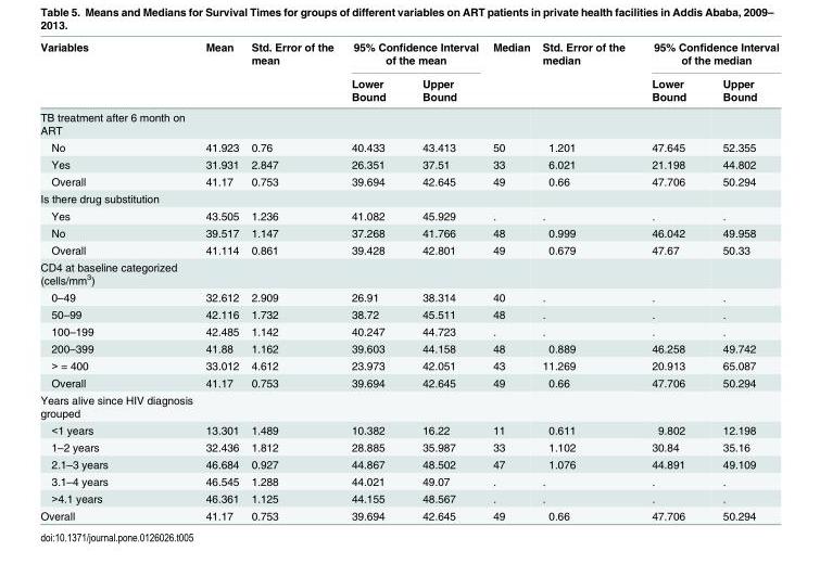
<table><thead><tr><td rowspan="2">Variables</td><td rowspan="2">Mean</td><td rowspan="2">Std. Error of the mean</td><td colspan="2">95% Confidence Interval of the mean</td><td rowspan="2">Median</td><td rowspan="2">Std. Error of the median</td><td colspan="2">95% Confidence Interval of the median</td></tr><tr><td>Lower Bound</td><td>Upper Bound</td><td>Lower Bound</td><td>Upper Bound</td></tr></thead><tbody><tr><td colspan="9">TB treatment after 6 month on ART</td></tr><tr><td>No</td><td>41.923</td><td>0.76</td><td>40.433</td><td>43.413</td><td>50</td><td>1.201</td><td>47.645</td><td>52.355</td></tr><tr><td>Yes</td><td>31.931</td><td>2.847</td><td>26.351</td><td>37.51</td><td>33</td><td>6.021</td><td>21.198</td><td>44.802</td></tr><tr><td>Overall</td><td>41.17</td><td>0.753</td><td>39.694</td><td>42.645</td><td>49</td><td>0.66</td><td>47.706</td><td>50.294</td></tr><tr><td colspan="9">Is there drug substitution</td></tr><tr><td>Yes</td><td>43.505</td><td>1.236</td><td>41.082</td><td>45.929</td><td>.</td><td>.</td><td>.</td><td>.</td></tr><tr><td>No</td><td>39.517</td><td>1.147</td><td>37.268</td><td>41.766</td><td>48</td><td>0.999</td><td>46.042</td><td>49.958</td></tr><tr><td>Overall</td><td>41.114</td><td>0.861</td><td>39.428</td><td>42.801</td><td>49</td><td>0.679</td><td>47.67</td><td>50.33</td></tr><tr><td colspan="9">CD4 at baseline categorized (cells/mm<sup>3</sup>)</td></tr><tr><td>0–49</td><td>32.612</td><td>2.909</td><td>26.91</td><td>38.314</td><td>40</td><td>.</td><td>.</td><td>.</td></tr><tr><td>50–99</td><td>42.116</td><td>1.732</td><td>38.72</td><td>45.511</td><td>48</td><td>.</td><td>.</td><td>.</td></tr><tr><td>100–199</td><td>42.485</td><td>1.142</td><td>40.247</td><td>44.723</td><td>.</td><td>.</td><td>.</td><td>.</td></tr><tr><td>200–399</td><td>41.88</td><td>1.162</td><td>39.603</td><td>44.158</td><td>48</td><td>0.889</td><td>46.258</td><td>49.742</td></tr><tr><td>&gt; = 400</td><td>33.012</td><td>4.612</td><td>23.973</td><td>42.051</td><td>43</td><td>11.269</td><td>20.913</td><td>65.087</td></tr><tr><td>Overall</td><td>41.17</td><td>0.753</td><td>39.694</td><td>42.645</td><td>49</td><td>0.66</td><td>47.706</td><td>50.294</td></tr><tr><td colspan="9">Years alive since HIV diagnosis grouped</td></tr><tr><td>&lt;1 years</td><td>13.301</td><td>1.489</td><td>10.382</td><td>16.22</td><td>11</td><td>0.611</td><td>9.802</td><td>12.198</td></tr><tr><td>1–2 years</td><td>32.436</td><td>1.812</td><td>28.885</td><td>35.987</td><td>33</td><td>1.102</td><td>30.84</td><td>35.16</td></tr><tr><td>2.1–3 years</td><td>46.684</td><td>0.927</td><td>44.867</td><td>48.502</td><td>47</td><td>1.076</td><td>44.891</td><td>49.109</td></tr><tr><td>3.1–4 years</td><td>46.545</td><td>1.288</td><td>44.021</td><td>49.07</td><td>.</td><td>.</td><td>.</td><td>.</td></tr><tr><td>&gt;4.1 years</td><td>46.361</td><td>1.125</td><td>44.155</td><td>48.567</td><td>.</td><td>.</td><td>.</td><td>.</td></tr><tr><td>Overall</td><td>41.17</td><td>0.753</td><td>39.694</td><td>42.645</td><td>49</td><td>0.66</td><td>47.706</td><td>50.294</td></tr></tbody></table>